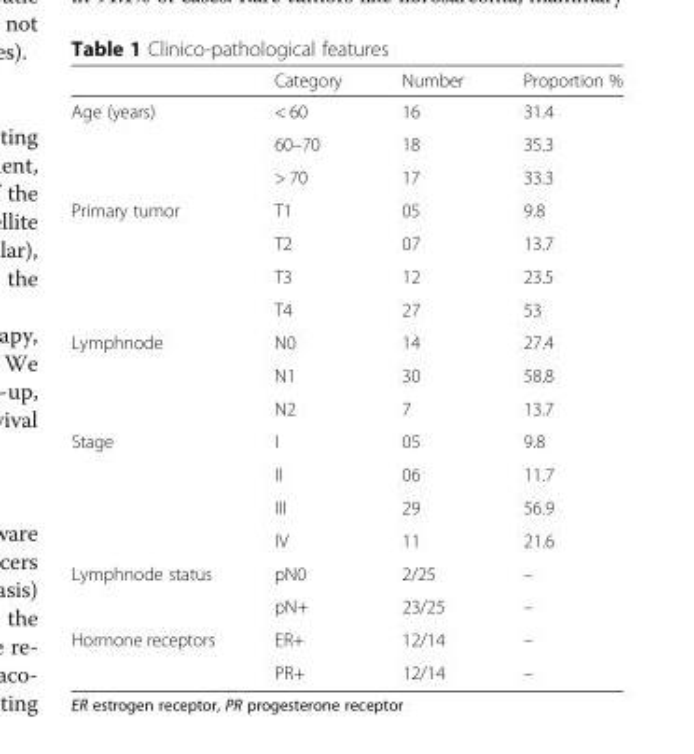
<table><thead><tr><td></td><td>Category</td><td>Number</td><td>Proportion %</td></tr></thead><tbody><tr><td rowspan="3">Age (years)</td><td>&lt; 60</td><td>16</td><td>31.4</td></tr><tr><td>60–70</td><td>18</td><td>35.3</td></tr><tr><td>&gt; 70</td><td>17</td><td>33.3</td></tr><tr><td rowspan="4">Primary tumor</td><td>T1</td><td>05</td><td>9.8</td></tr><tr><td>T2</td><td>07</td><td>13.7</td></tr><tr><td>T3</td><td>12</td><td>23.5</td></tr><tr><td>T4</td><td>27</td><td>53</td></tr><tr><td rowspan="3">Lymphnode</td><td>N0</td><td>14</td><td>27.4</td></tr><tr><td>N1</td><td>30</td><td>58.8</td></tr><tr><td>N2</td><td>7</td><td>13.7</td></tr><tr><td rowspan="4">Stage</td><td>I</td><td>05</td><td>9.8</td></tr><tr><td>II</td><td>06</td><td>11.7</td></tr><tr><td>III</td><td>29</td><td>56.9</td></tr><tr><td>IV</td><td>11</td><td>21.6</td></tr><tr><td rowspan="2">Lymphnode status</td><td>pN0</td><td>2/25</td><td>–</td></tr><tr><td>pN+</td><td>23/25</td><td>–</td></tr><tr><td rowspan="2">Hormone receptors</td><td>ER+</td><td>12/14</td><td>–</td></tr><tr><td>PR+</td><td>12/14</td><td>–</td></tr></tbody></table>